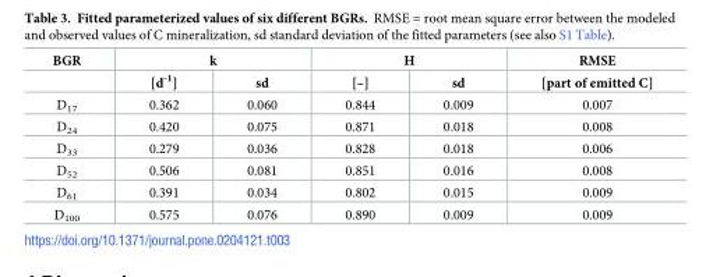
<table><thead><tr><td rowspan="2">BGR</td><td colspan="2">k</td><td colspan="2">Η</td><td rowspan="2">RMSE [part of emitted C]</td></tr><tr><td>[d<sup>-1</sup>]</td><td>sd</td><td>[–]</td><td>sd</td></tr></thead><tbody><tr><td>D<sub>17</sub></td><td>0.362</td><td>0.060</td><td>0.844</td><td>0.009</td><td>0.007</td></tr><tr><td>D<sub>24</sub></td><td>0.420</td><td>0.075</td><td>0.871</td><td>0.018</td><td>0.008</td></tr><tr><td>D<sub>33</sub></td><td>0.279</td><td>0.036</td><td>0.828</td><td>0.018</td><td>0.006</td></tr><tr><td>D<sub>52</sub></td><td>0.506</td><td>0.081</td><td>0.851</td><td>0.016</td><td>0.008</td></tr><tr><td>D<sub>61</sub></td><td>0.391</td><td>0.034</td><td>0.802</td><td>0.015</td><td>0.009</td></tr><tr><td>D<sub>100</sub></td><td>0.575</td><td>0.076</td><td>0.890</td><td>0.009</td><td>0.009</td></tr></tbody></table>